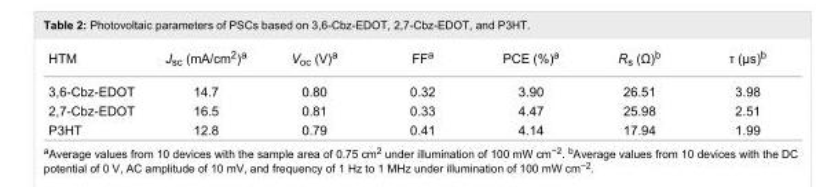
<table><tbody><tr><td>HTM</td><td>J<sub>sc</sub> (mA/cm<sup>2</sup>)<sup>a</sup></td><td>V<sub>oc</sub> (V)<sup>a</sup></td><td>FF<sup>a</sup></td><td>PCE (%)<sup>a</sup></td><td>R<sub>s</sub> (Ω)<sup>b</sup></td><td>τ (μs)<sup>b</sup></td></tr><tr><td>3,6-Cbz-EDOT</td><td>14.7</td><td>0.80</td><td>0.32</td><td>3.90</td><td>26.51</td><td>3.98</td></tr><tr><td>2,7-Cbz-EDOT</td><td>16.5</td><td>0.81</td><td>0.33</td><td>4.47</td><td>25.98</td><td>2.51</td></tr><tr><td>P3HT</td><td>12.8</td><td>0.79</td><td>0.41</td><td>4.14</td><td>17.94</td><td>1.99</td></tr></tbody></table>